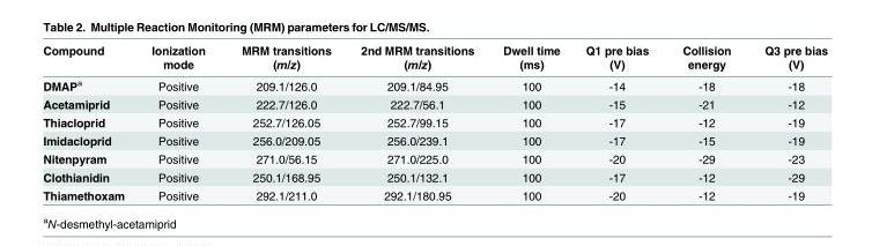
<table><thead><tr><td>Compound</td><td>Ionization mode</td><td>MRM transitions (m/z)</td><td>2nd MRM transitions (m/z)</td><td>Dwell time (ms)</td><td>Q1 pre bias (V)</td><td>Collision energy</td><td>Q3 pre bias (V)</td></tr></thead><tbody><tr><td>DMAP<sup>a</sup></td><td>Positive</td><td>209.1/126.0</td><td>209.1/84.95</td><td>100</td><td>-14</td><td>-18</td><td>-18</td></tr><tr><td>Acetamiprid</td><td>Positive</td><td>222.7/126.0</td><td>222.7/56.1</td><td>100</td><td>-15</td><td>-21</td><td>-12</td></tr><tr><td>Thiacloprid</td><td>Positive</td><td>252.7/126.05</td><td>252.7/99.15</td><td>100</td><td>-17</td><td>-12</td><td>-19</td></tr><tr><td>Imidacloprid</td><td>Positive</td><td>256.0/209.05</td><td>256.0/239.1</td><td>100</td><td>-17</td><td>-15</td><td>-19</td></tr><tr><td>Nitenpyram</td><td>Positive</td><td>271.0/56.15</td><td>271.0/225.0</td><td>100</td><td>-20</td><td>-29</td><td>-23</td></tr><tr><td>Clothianidin</td><td>Positive</td><td>250.1/168.95</td><td>250.1/132.1</td><td>100</td><td>-17</td><td>-12</td><td>-29</td></tr><tr><td>Thiamethoxam</td><td>Positive</td><td>292.1/211.0</td><td>292.1/180.95</td><td>100</td><td>-20</td><td>-12</td><td>-19</td></tr></tbody></table>